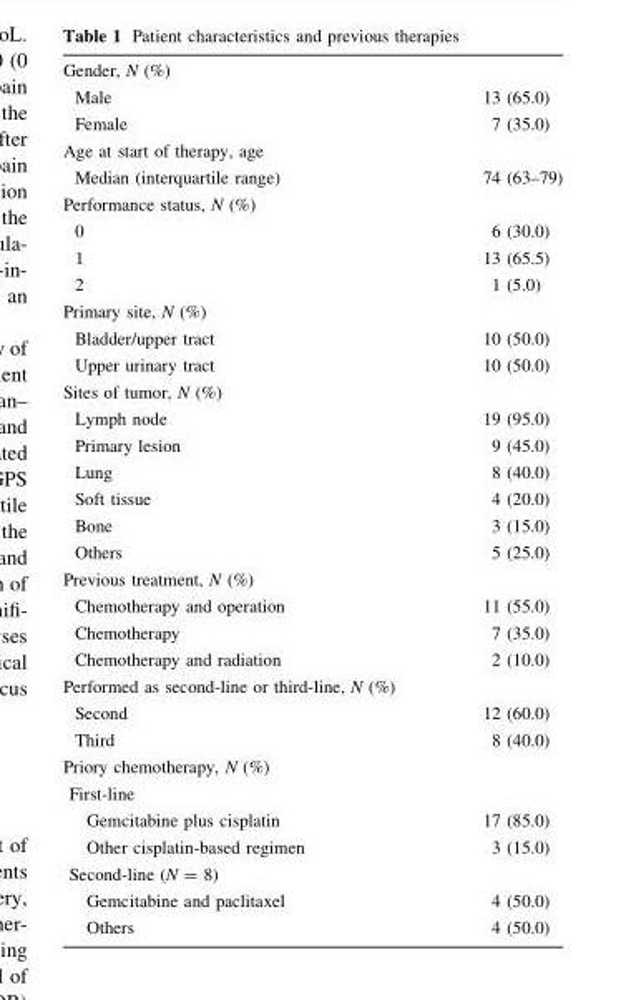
<table><tbody><tr><td colspan="2">Gender, N (%)</td></tr><tr><td>Male</td><td>13 (65.0)</td></tr><tr><td>Female</td><td>7 (35.0)</td></tr><tr><td colspan="2">Age at start of therapy, age</td></tr><tr><td>Median (interquartile range)</td><td>74 (63–79)</td></tr><tr><td colspan="2">Performance status, N (%)</td></tr><tr><td>0</td><td>6 (30.0)</td></tr><tr><td>1</td><td>13 (65.5)</td></tr><tr><td>2</td><td>1 (5.0)</td></tr><tr><td colspan="2">Primary site, N (%)</td></tr><tr><td>Bladder/upper tract</td><td>10 (50.0)</td></tr><tr><td>Upper urinary tract</td><td>10 (50.0)</td></tr><tr><td colspan="2">Sites of tumor, N (%)</td></tr><tr><td>Lymph node</td><td>19 (95.0)</td></tr><tr><td>Primary lesion</td><td>9 (45.0)</td></tr><tr><td>Lung</td><td>8 (40.0)</td></tr><tr><td>Soft tissue</td><td>4 (20.0)</td></tr><tr><td>Bone</td><td>3 (15.0)</td></tr><tr><td>Others</td><td>5 (25.0)</td></tr><tr><td colspan="2">Previous treatment, N (%)</td></tr><tr><td>Chemotherapy and operation</td><td>11 (55.0)</td></tr><tr><td>Chemotherapy</td><td>7 (35.0)</td></tr><tr><td>Chemotherapy and radiation</td><td>2 (10.0)</td></tr><tr><td colspan="2">Performed as second-line or third-line, N (%)</td></tr><tr><td>Second</td><td>12 (60.0)</td></tr><tr><td>Third</td><td>8 (40.0)</td></tr><tr><td colspan="2">Priory chemotherapy, N (%)</td></tr><tr><td colspan="2">First-line</td></tr><tr><td>Gemcitabine plus cisplatin</td><td>17 (85.0)</td></tr><tr><td>Other cisplatin-based regimen</td><td>3 (15.0)</td></tr><tr><td colspan="2">Second-line (N = 8)</td></tr><tr><td>Gemcitabine and paclitaxel</td><td>4 (50.0)</td></tr><tr><td>Others</td><td>4 (50.0)</td></tr></tbody></table>